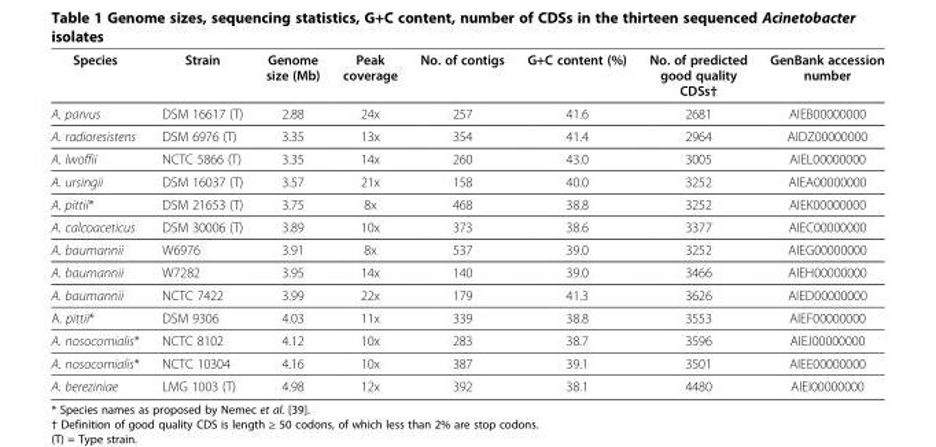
<table><thead><tr><td>Species</td><td>Strain</td><td>Genome size (Mb)</td><td>Peak coverage</td><td>No. of contigs</td><td>G+C content (%)</td><td>No. of predicted good quality CDSs†</td><td>GenBank accession number</td></tr></thead><tbody><tr><td>A. parvus</td><td>DSM 16617 (T)</td><td>2.88</td><td>24x</td><td>257</td><td>41.6</td><td>2681</td><td>AIEB00000000</td></tr><tr><td>A. radioresistens</td><td>DSM 6976 (T)</td><td>3.35</td><td>13x</td><td>354</td><td>41.4</td><td>2964</td><td>AIDZ00000000</td></tr><tr><td>A. lwoffii</td><td>NCTC 5866 (T)</td><td>3.35</td><td>14x</td><td>260</td><td>43.0</td><td>3005</td><td>AIEL00000000</td></tr><tr><td>A. ursingii</td><td>DSM 16037 (T)</td><td>3.57</td><td>21x</td><td>158</td><td>40.0</td><td>3252</td><td>AIEA00000000</td></tr><tr><td>A. pittii*</td><td>DSM 21653 (T)</td><td>3.75</td><td>8x</td><td>468</td><td>38.8</td><td>3252</td><td>AIEK00000000</td></tr><tr><td>A. calcoaceticus</td><td>DSM 30006 (T)</td><td>3.89</td><td>10x</td><td>373</td><td>38.6</td><td>3377</td><td>AIEC00000000</td></tr><tr><td>A. baumannii</td><td>W6976</td><td>3.91</td><td>8x</td><td>537</td><td>39.0</td><td>3252</td><td>AIEG00000000</td></tr><tr><td>A. baumannii</td><td>W7282</td><td>3.95</td><td>14x</td><td>140</td><td>39.0</td><td>3466</td><td>AIEH00000000</td></tr><tr><td>A. baumannii</td><td>NCTC 7422</td><td>3.99</td><td>22x</td><td>179</td><td>41.3</td><td>3626</td><td>AIED00000000</td></tr><tr><td>A. pittii*</td><td>DSM 9306</td><td>4.03</td><td>11x</td><td>339</td><td>38.8</td><td>3553</td><td>AIEF00000000</td></tr><tr><td>A. nosocomialis*</td><td>NCTC 8102</td><td>4.12</td><td>10x</td><td>283</td><td>38.7</td><td>3596</td><td>AIEJ00000000</td></tr><tr><td>A. nosocomialis*</td><td>NCTC 10304</td><td>4.16</td><td>10x</td><td>387</td><td>39.1</td><td>3501</td><td>AIEE00000000</td></tr><tr><td>A. bereziniae</td><td>LMG 1003 (T)</td><td>4.98</td><td>12x</td><td>392</td><td>38.1</td><td>4480</td><td>AIEI00000000</td></tr></tbody></table>